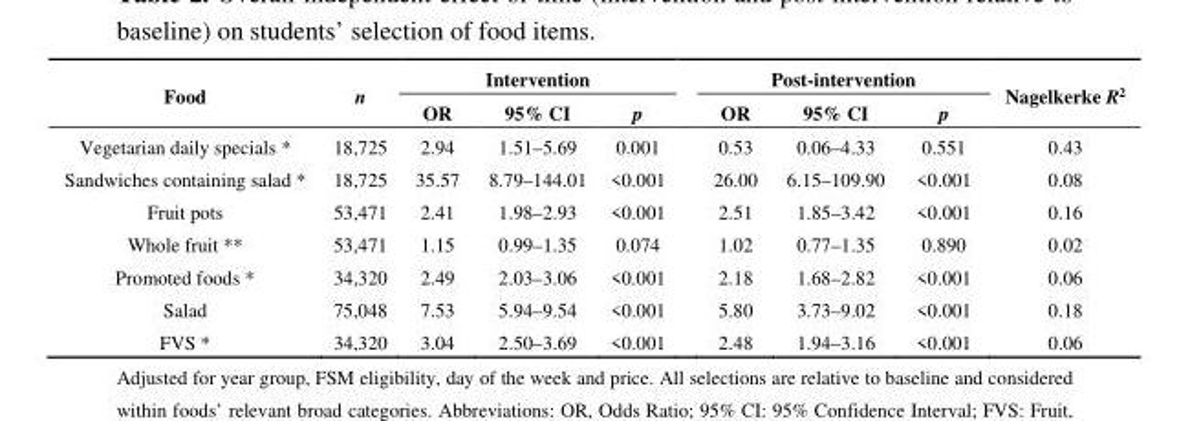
<table><thead><tr><td rowspan="2">Food</td><td rowspan="2">n</td><td colspan="3">Intervention</td><td colspan="3">Post-intervention</td><td rowspan="2">Nagelkerke R<sup>2</sup></td></tr><tr><td>OR</td><td>95% CI</td><td>p</td><td>OR</td><td>95% CI</td><td>p</td></tr></thead><tbody><tr><td>Vegetarian daily specials *</td><td>18,725</td><td>2.94</td><td>1.51–5.69</td><td>0.001</td><td>0.53</td><td>0.06–4.33</td><td>0.551</td><td>0.43</td></tr><tr><td>Sandwiches containing salad *</td><td>18,725</td><td>35.57</td><td>8.79–144.01</td><td>&lt;0.001</td><td>26.00</td><td>6.15–109.90</td><td>&lt;0.001</td><td>0.08</td></tr><tr><td>Fruit pots</td><td>53,471</td><td>2.41</td><td>1.98–2.93</td><td>&lt;0.001</td><td>2.51</td><td>1.85–3.42</td><td>&lt;0.001</td><td>0.16</td></tr><tr><td>Whole fruit **</td><td>53,471</td><td>1.15</td><td>0.99–1.35</td><td>0.074</td><td>1.02</td><td>0.77–1.35</td><td>0.890</td><td>0.02</td></tr><tr><td>Promoted foods *</td><td>34,320</td><td>2.49</td><td>2.03–3.06</td><td>&lt;0.001</td><td>2.18</td><td>1.68–2.82</td><td>&lt;0.001</td><td>0.06</td></tr><tr><td>Salad</td><td>75,048</td><td>7.53</td><td>5.94–9.54</td><td>&lt;0.001</td><td>5.80</td><td>3.73–9.02</td><td>&lt;0.001</td><td>0.18</td></tr><tr><td>FVS *</td><td>34,320</td><td>3.04</td><td>2.50–3.69</td><td>&lt;0.001</td><td>2.48</td><td>1.94–3.16</td><td>&lt;0.001</td><td>0.06</td></tr></tbody></table>